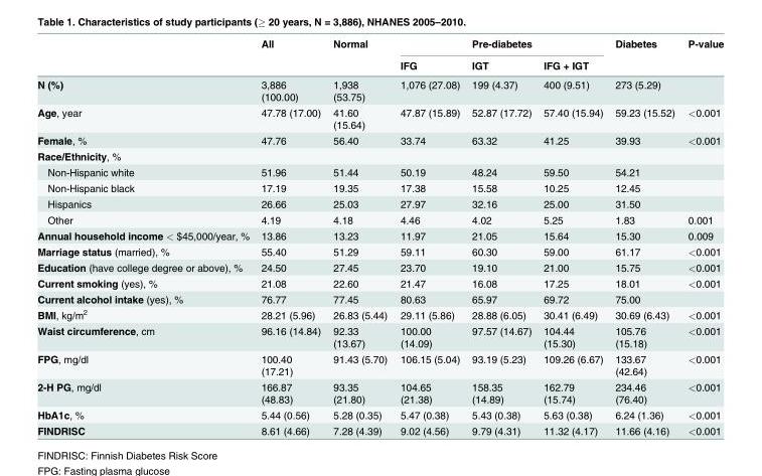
<table><thead><tr><td rowspan="2"></td><td rowspan="2">All</td><td rowspan="2">Normal</td><td colspan="3">Pre-diabetes</td><td rowspan="2">Diabetes</td><td rowspan="2">P-value</td></tr><tr><td>IFG</td><td>IGT</td><td>IFG + IGT</td></tr></thead><tbody><tr><td>N (%)</td><td>3,886 (100.00)</td><td>1,938 (53.75)</td><td>1,076 (27.08)</td><td>199 (4.37)</td><td>400 (9.51)</td><td>273 (5.29)</td><td></td></tr><tr><td>Age, year</td><td>47.78 (17.00)</td><td>41.60 (15.64)</td><td>47.87 (15.89)</td><td>52.87 (17.72)</td><td>57.40 (15.94)</td><td>59.23 (15.52)</td><td>&lt;0.001</td></tr><tr><td>Female, %</td><td>47.76</td><td>56.40</td><td>33.74</td><td>63.32</td><td>41.25</td><td>39.93</td><td>&lt;0.001</td></tr><tr><td colspan="8">Race/Ethnicity, %</td></tr><tr><td>Non-Hispanic white</td><td>51.96</td><td>51.44</td><td>50.19</td><td>48.24</td><td>59.50</td><td>54.21</td><td></td></tr><tr><td>Non-Hispanic black</td><td>17.19</td><td>19.35</td><td>17.38</td><td>15.58</td><td>10.25</td><td>12.45</td><td></td></tr><tr><td>Hispanics</td><td>26.66</td><td>25.03</td><td>27.97</td><td>32.16</td><td>25.00</td><td>31.50</td><td></td></tr><tr><td>Other</td><td>4.19</td><td>4.18</td><td>4.46</td><td>4.02</td><td>5.25</td><td>1.83</td><td>0.001</td></tr><tr><td>Annual household income &lt; $45,000/year, %</td><td>13.86</td><td>13.23</td><td>11.97</td><td>21.05</td><td>15.64</td><td>15.30</td><td>0.009</td></tr><tr><td>Marriage status (married), %</td><td>55.40</td><td>51.29</td><td>59.11</td><td>60.30</td><td>59.00</td><td>61.17</td><td>&lt;0.001</td></tr><tr><td>Education (have college degree or above), %</td><td>24.50</td><td>27.45</td><td>23.70</td><td>19.10</td><td>21.00</td><td>15.75</td><td>&lt;0.001</td></tr><tr><td>Current smoking (yes), %</td><td>21.08</td><td>22.60</td><td>21.47</td><td>16.08</td><td>17.25</td><td>18.01</td><td>&lt;0.001</td></tr><tr><td>Current alcohol intake (yes), %</td><td>76.77</td><td>77.45</td><td>80.63</td><td>65.97</td><td>69.72</td><td>75.00</td><td></td></tr><tr><td>BMI, kg/m<sup>2</sup></td><td>28.21 (5.96)</td><td>26.83 (5.44)</td><td>29.11 (5.86)</td><td>28.88 (6.05)</td><td>30.41 (6.49)</td><td>30.69 (6.43)</td><td>&lt;0.001</td></tr><tr><td>Waist circumference, cm</td><td>96.16 (14.84)</td><td>92.33 (13.67)</td><td>100.00 (14.09)</td><td>97.57 (14.67)</td><td>104.44 (15.30)</td><td>105.76 (15.18)</td><td>&lt;0.001</td></tr><tr><td>FPG, mg/dl</td><td>100.40 (17.21)</td><td>91.43 (5.70)</td><td>106.15 (5.04)</td><td>93.19 (5.23)</td><td>109.26 (6.67)</td><td>133.67 (42.64)</td><td>&lt;0.001</td></tr><tr><td>2-H PG, mg/dl</td><td>166.87 (48.83)</td><td>93.35 (21.80)</td><td>104.65 (21.38)</td><td>158.35 (14.89)</td><td>162.79 (15.74)</td><td>234.46 (76.40)</td><td>&lt;0.001</td></tr><tr><td>HbA1c, %</td><td>5.44 (0.56)</td><td>5.28 (0.35)</td><td>5.47 (0.38)</td><td>5.43 (0.38)</td><td>5.63 (0.38)</td><td>6.24 (1.36)</td><td>&lt;0.001</td></tr><tr><td>FINDRISC</td><td>8.61 (4.66)</td><td>7.28 (4.39)</td><td>9.02 (4.56)</td><td>9.79 (4.31)</td><td>11.32 (4.17)</td><td>11.66 (4.16)</td><td>&lt;0.001</td></tr></tbody></table>